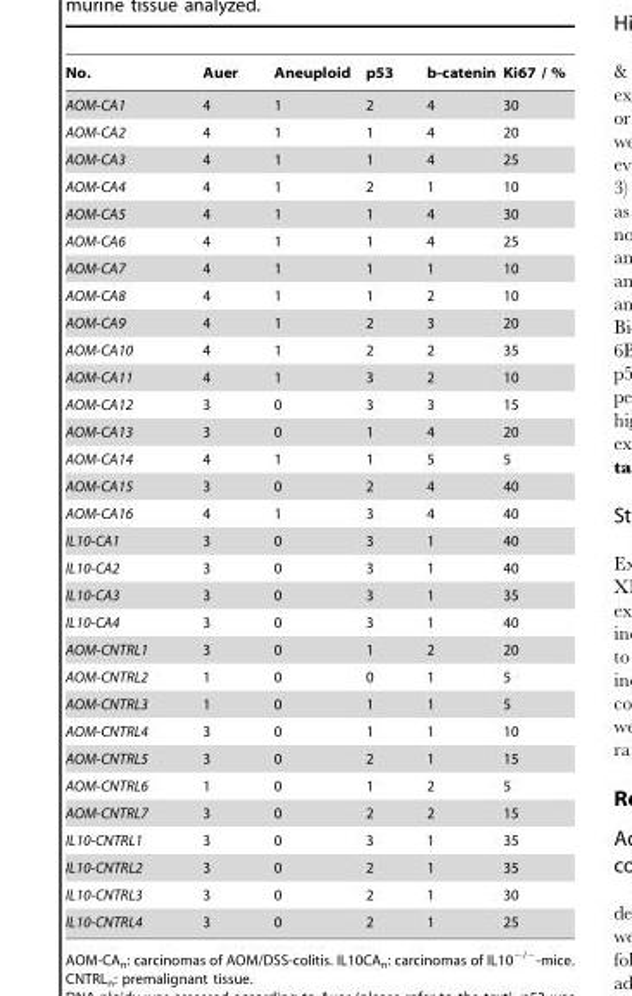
<table><thead><tr><td>No.</td><td>Auer</td><td>Aneuploid</td><td>p53</td><td>b-catenin</td><td>Ki67 / %</td></tr></thead><tbody><tr><td>AOM-CA1</td><td>4</td><td>1</td><td>2</td><td>4</td><td>30</td></tr><tr><td>AOM-CA2</td><td>4</td><td>1</td><td>1</td><td>4</td><td>20</td></tr><tr><td>AOM-CA3</td><td>4</td><td>1</td><td>1</td><td>4</td><td>25</td></tr><tr><td>AOM-CA4</td><td>4</td><td>1</td><td>2</td><td>1</td><td>10</td></tr><tr><td>AOM-CA5</td><td>4</td><td>1</td><td>1</td><td>4</td><td>30</td></tr><tr><td>AOM-CA6</td><td>4</td><td>1</td><td>1</td><td>4</td><td>25</td></tr><tr><td>AOM-CA7</td><td>4</td><td>1</td><td>1</td><td>1</td><td>10</td></tr><tr><td>AOM-CA8</td><td>4</td><td>1</td><td>1</td><td>2</td><td>10</td></tr><tr><td>AOM-CA9</td><td>4</td><td>1</td><td>2</td><td>3</td><td>20</td></tr><tr><td>AOM-CA10</td><td>4</td><td>1</td><td>2</td><td>2</td><td>35</td></tr><tr><td>AOM-CA11</td><td>4</td><td>1</td><td>3</td><td>2</td><td>10</td></tr><tr><td>AOM-CA12</td><td>3</td><td>0</td><td>3</td><td>3</td><td>15</td></tr><tr><td>AOM-CA13</td><td>3</td><td>0</td><td>1</td><td>4</td><td>20</td></tr><tr><td>AOM-CA14</td><td>4</td><td>1</td><td>1</td><td>5</td><td>5</td></tr><tr><td>AOM-CA15</td><td>3</td><td>0</td><td>2</td><td>4</td><td>40</td></tr><tr><td>AOM-CA16</td><td>4</td><td>1</td><td>3</td><td>4</td><td>40</td></tr><tr><td>IL10-CA1</td><td>3</td><td>0</td><td>3</td><td>1</td><td>40</td></tr><tr><td>IL10-CA2</td><td>3</td><td>0</td><td>3</td><td>1</td><td>40</td></tr><tr><td>IL10-CA3</td><td>3</td><td>0</td><td>3</td><td>1</td><td>35</td></tr><tr><td>IL10-CA4</td><td>3</td><td>0</td><td>3</td><td>1</td><td>40</td></tr><tr><td>AOM-CNTRL1</td><td>3</td><td>0</td><td>1</td><td>2</td><td>20</td></tr><tr><td>AOM-CNTRL2</td><td>1</td><td>0</td><td>0</td><td>1</td><td>5</td></tr><tr><td>AOM-CNTRL3</td><td>1</td><td>0</td><td>1</td><td>1</td><td>5</td></tr><tr><td>AOM-CNTRL4</td><td>3</td><td>0</td><td>1</td><td>1</td><td>10</td></tr><tr><td>AOM-CNTRL5</td><td>3</td><td>0</td><td>2</td><td>1</td><td>15</td></tr><tr><td>AOM-CNTRL6</td><td>1</td><td>0</td><td>1</td><td>2</td><td>5</td></tr><tr><td>AOM-CNTRL7</td><td>3</td><td>0</td><td>2</td><td>2</td><td>15</td></tr><tr><td>IL10-CNTRL1</td><td>3</td><td>0</td><td>3</td><td>1</td><td>35</td></tr><tr><td>IL10-CNTRL2</td><td>3</td><td>0</td><td>2</td><td>1</td><td>35</td></tr><tr><td>IL10-CNTRL3</td><td>3</td><td>0</td><td>2</td><td>1</td><td>30</td></tr><tr><td>IL10-CNTRL4</td><td>3</td><td>0</td><td>2</td><td>1</td><td>25</td></tr></tbody></table>